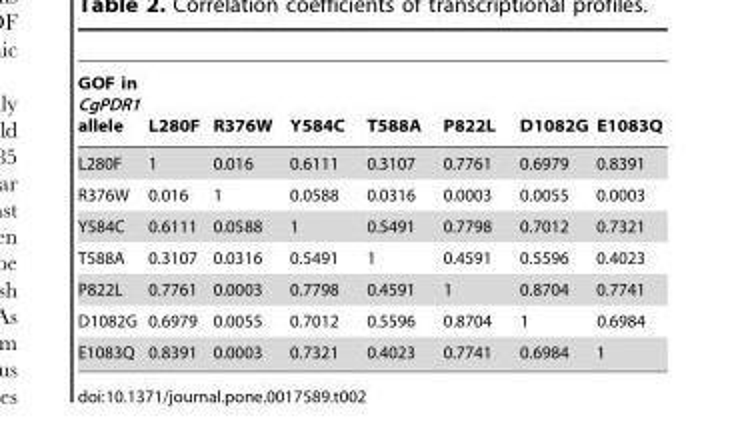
<table><thead><tr><td>GOF in CgPDR1 allele</td><td>L280F</td><td>R376W</td><td>Y584C</td><td>T588A</td><td>P822L</td><td>D1082G</td><td>E1083Q</td></tr></thead><tbody><tr><td>L280F</td><td>1</td><td>0.016</td><td>0.6111</td><td>0.3107</td><td>0.7761</td><td>0.6979</td><td>0.8391</td></tr><tr><td>R376W</td><td>0.016</td><td>1</td><td>0.0588</td><td>0.0316</td><td>0.0003</td><td>0.0055</td><td>0.0003</td></tr><tr><td>Y584C</td><td>0.6111</td><td>0.0588</td><td>1</td><td>0.5491</td><td>0.7798</td><td>0.7012</td><td>0.7321</td></tr><tr><td>T588A</td><td>0.3107</td><td>0.0316</td><td>0.5491</td><td>1</td><td>0.4591</td><td>0.5596</td><td>0.4023</td></tr><tr><td>P822L</td><td>0.7761</td><td>0.0003</td><td>0.7798</td><td>0.4591</td><td>1</td><td>0.8704</td><td>0.7741</td></tr><tr><td>D1082G</td><td>0.6979</td><td>0.0055</td><td>0.7012</td><td>0.5596</td><td>0.8704</td><td>1</td><td>0.6984</td></tr><tr><td>E1083Q</td><td>0.8391</td><td>0.0003</td><td>0.7321</td><td>0.4023</td><td>0.7741</td><td>0.6984</td><td>1</td></tr></tbody></table>